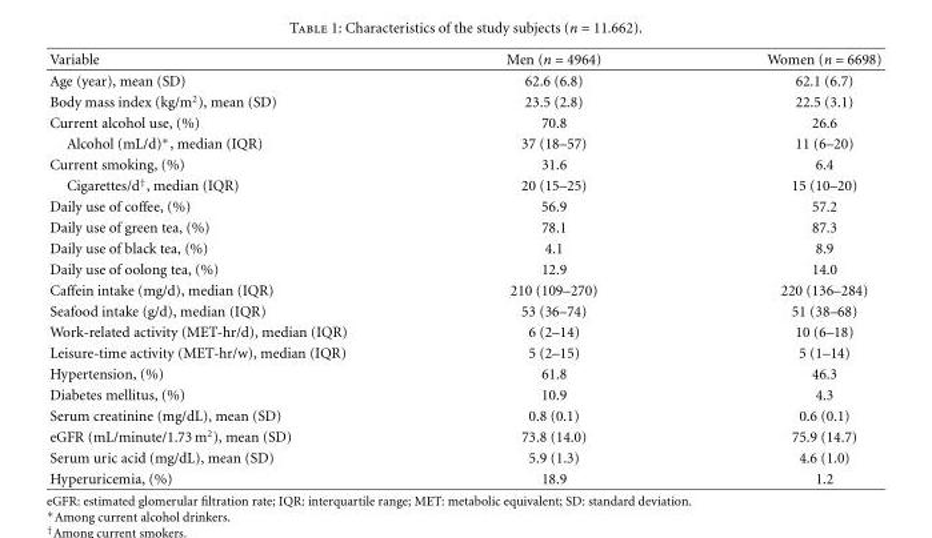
<table><thead><tr><td>Variable</td><td>Men (n = 4964)</td><td>Women (n = 6698)</td></tr></thead><tbody><tr><td>Age (year), mean (SD)</td><td>62.6 (6.8)</td><td>62.1 (6.7)</td></tr><tr><td>Body mass index (kg/m<sup>2</sup>), mean (SD)</td><td>23.5 (2.8)</td><td>22.5 (3.1)</td></tr><tr><td>Current alcohol use, (%)</td><td>70.8</td><td>26.6</td></tr><tr><td>Alcohol (mL/d)∗, median (IQR)</td><td>37 (18–57)</td><td>11 (6–20)</td></tr><tr><td>Current smoking, (%)</td><td>31.6</td><td>6.4</td></tr><tr><td>Cigarettes/d<sup>†</sup>, median (IQR)</td><td>20 (15–25)</td><td>15 (10–20)</td></tr><tr><td>Daily use of coffee, (%)</td><td>56.9</td><td>57.2</td></tr><tr><td>Daily use of green tea, (%)</td><td>78.1</td><td>87.3</td></tr><tr><td>Daily use of black tea, (%)</td><td>4.1</td><td>8.9</td></tr><tr><td>Daily use of oolong tea, (%)</td><td>12.9</td><td>14.0</td></tr><tr><td>Caffein intake (mg/d), median (IQR)</td><td>210 (109–270)</td><td>220 (136–284)</td></tr><tr><td>Seafood intake (g/d), median (IQR)</td><td>53 (36–74)</td><td>51 (38–68)</td></tr><tr><td>Work-related activity (MET-hr/d), median (IQR)</td><td>6 (2–14)</td><td>10 (6–18)</td></tr><tr><td>Leisure-time activity (MET-hr/w), median (IQR)</td><td>5 (2–15)</td><td>5 (1–14)</td></tr><tr><td>Hypertension, (%)</td><td>61.8</td><td>46.3</td></tr><tr><td>Diabetes mellitus, (%)</td><td>10.9</td><td>4.3</td></tr><tr><td>Serum creatinine (mg/dL), mean (SD)</td><td>0.8 (0.1)</td><td>0.6 (0.1)</td></tr><tr><td>eGFR (mL/minute/1.73 m<sup>2</sup>), mean (SD)</td><td>73.8 (14.0)</td><td>75.9 (14.7)</td></tr><tr><td>Serum uric acid (mg/dL), mean (SD)</td><td>5.9 (1.3)</td><td>4.6 (1.0)</td></tr><tr><td>Hyperuricemia, (%)</td><td>18.9</td><td>1.2</td></tr></tbody></table>